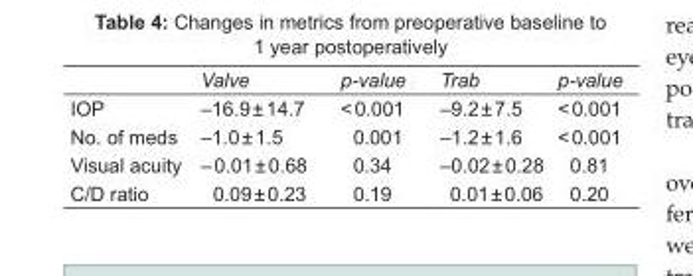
<table><thead><tr><td></td><td>Valve</td><td>p-value</td><td>Trab</td><td>p-value</td></tr></thead><tbody><tr><td>IOP</td><td>–16.9 ± 14.7</td><td>&lt; 0.001</td><td>–9.2 ± 7.5</td><td>&lt; 0.001</td></tr><tr><td>No. of meds</td><td>–1.0 ± 1.5</td><td>0.001</td><td>–1.2 ± 1.6</td><td>&lt; 0.001</td></tr><tr><td>Visual acuity</td><td>– 0.01 ± 0.68</td><td>0.34</td><td>–0.02 ± 0.28</td><td>0.81</td></tr><tr><td>C/D ratio</td><td>0.09 ± 0.23</td><td>0.19</td><td>0.01 ± 0.06</td><td>0.20</td></tr></tbody></table>